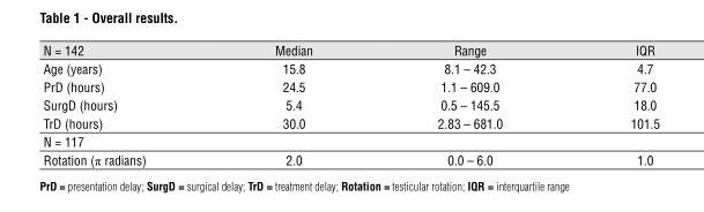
<table><thead><tr><td>N = 142</td><td>Median</td><td>Range</td><td>IQR</td></tr></thead><tbody><tr><td>Age (years)</td><td>15.8</td><td>8.1 – 42.3</td><td>4.7</td></tr><tr><td>PrD (hours)</td><td>24.5</td><td>1.1 – 609.0</td><td>77.0</td></tr><tr><td>SurgD (hours)</td><td>5.4</td><td>0.5 – 145.5</td><td>18.0</td></tr><tr><td>TrD (hours)</td><td>30.0</td><td>2.83 – 681.0</td><td>101.5</td></tr><tr><td colspan="4">N = 117</td></tr><tr><td>Rotation (π radians)</td><td>2.0</td><td>0.0 – 6.0</td><td>1.0</td></tr></tbody></table>